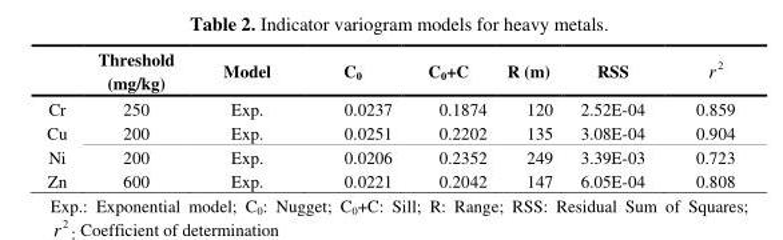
<table><thead><tr><td></td><td>Threshold (mg/kg)</td><td>Model</td><td>C<sub>0</sub></td><td>C<sub>0</sub>+C</td><td>R (m)</td><td>RSS</td><td>2r</td></tr></thead><tbody><tr><td>Cr</td><td>250</td><td>Exp.</td><td>0.0237</td><td>0.1874</td><td>120</td><td>2.52E-04</td><td>0.859</td></tr><tr><td>Cu</td><td>200</td><td>Exp.</td><td>0.0251</td><td>0.2202</td><td>135</td><td>3.08E-04</td><td>0.904</td></tr><tr><td>Ni</td><td>200</td><td>Exp.</td><td>0.0206</td><td>0.2352</td><td>249</td><td>3.39E-03</td><td>0.723</td></tr><tr><td>Zn</td><td>600</td><td>Exp.</td><td>0.0221</td><td>0.2042</td><td>147</td><td>6.05E-04</td><td>0.808</td></tr></tbody></table>